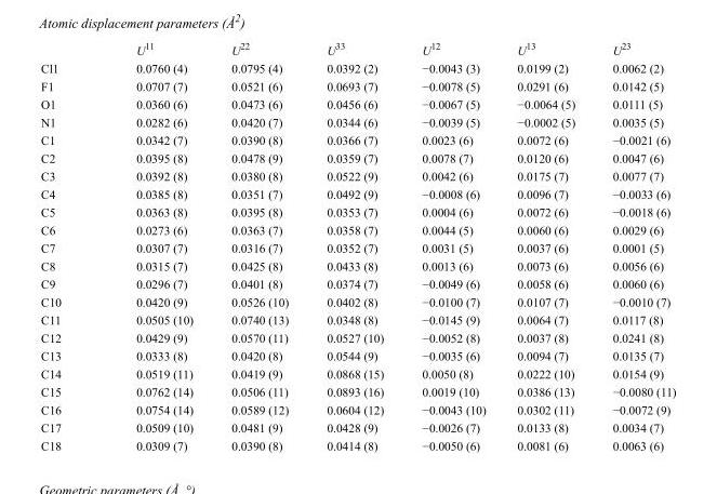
<table><thead><tr><td></td><td>U<sup>11</sup></td><td>U<sup>22</sup></td><td>U<sup>33</sup></td><td>U<sup>12</sup></td><td>U<sup>13</sup></td><td>U<sup>23</sup></td></tr></thead><tbody><tr><td>Cl1</td><td>0.0760 (4)</td><td>0.0795 (4)</td><td>0.0392 (2)</td><td>−0.0043 (3)</td><td>0.0199 (2)</td><td>0.0062 (2)</td></tr><tr><td>F1</td><td>0.0707 (7)</td><td>0.0521 (6)</td><td>0.0693 (7)</td><td>−0.0078 (5)</td><td>0.0291 (6)</td><td>0.0142 (5)</td></tr><tr><td>O1</td><td>0.0360 (6)</td><td>0.0473 (6)</td><td>0.0456 (6)</td><td>−0.0067 (5)</td><td>−0.0064 (5)</td><td>0.0111 (5)</td></tr><tr><td>N1</td><td>0.0282 (6)</td><td>0.0420 (7)</td><td>0.0344 (6)</td><td>−0.0039 (5)</td><td>−0.0002 (5)</td><td>0.0035 (5)</td></tr><tr><td>C1</td><td>0.0342 (7)</td><td>0.0390 (8)</td><td>0.0366 (7)</td><td>0.0023 (6)</td><td>0.0072 (6)</td><td>−0.0021 (6)</td></tr><tr><td>C2</td><td>0.0395 (8)</td><td>0.0478 (9)</td><td>0.0359 (7)</td><td>0.0078 (7)</td><td>0.0120 (6)</td><td>0.0047 (6)</td></tr><tr><td>C3</td><td>0.0392 (8)</td><td>0.0380 (8)</td><td>0.0522 (9)</td><td>0.0042 (6)</td><td>0.0175 (7)</td><td>0.0077 (7)</td></tr><tr><td>C4</td><td>0.0385 (8)</td><td>0.0351 (7)</td><td>0.0492 (9)</td><td>−0.0008 (6)</td><td>0.0096 (7)</td><td>−0.0033 (6)</td></tr><tr><td>C5</td><td>0.0363 (8)</td><td>0.0395 (8)</td><td>0.0353 (7)</td><td>0.0004 (6)</td><td>0.0072 (6)</td><td>−0.0018 (6)</td></tr><tr><td>C6</td><td>0.0273 (6)</td><td>0.0363 (7)</td><td>0.0358 (7)</td><td>0.0044 (5)</td><td>0.0060 (6)</td><td>0.0029 (6)</td></tr><tr><td>C7</td><td>0.0307 (7)</td><td>0.0316 (7)</td><td>0.0352 (7)</td><td>0.0031 (5)</td><td>0.0037 (6)</td><td>0.0001 (5)</td></tr><tr><td>C8</td><td>0.0315 (7)</td><td>0.0425 (8)</td><td>0.0433 (8)</td><td>0.0013 (6)</td><td>0.0073 (6)</td><td>0.0056 (6)</td></tr><tr><td>C9</td><td>0.0296 (7)</td><td>0.0401 (8)</td><td>0.0374 (7)</td><td>−0.0049 (6)</td><td>0.0058 (6)</td><td>0.0060 (6)</td></tr><tr><td>C10</td><td>0.0420 (9)</td><td>0.0526 (10)</td><td>0.0402 (8)</td><td>−0.0100 (7)</td><td>0.0107 (7)</td><td>−0.0010 (7)</td></tr><tr><td>C11</td><td>0.0505 (10)</td><td>0.0740 (13)</td><td>0.0348 (8)</td><td>−0.0145 (9)</td><td>0.0064 (7)</td><td>0.0117 (8)</td></tr><tr><td>C12</td><td>0.0429 (9)</td><td>0.0570 (11)</td><td>0.0527 (10)</td><td>−0.0052 (8)</td><td>0.0037 (8)</td><td>0.0241 (8)</td></tr><tr><td>C13</td><td>0.0333 (8)</td><td>0.0420 (8)</td><td>0.0544 (9)</td><td>−0.0035 (6)</td><td>0.0094 (7)</td><td>0.0135 (7)</td></tr><tr><td>C14</td><td>0.0519 (11)</td><td>0.0419 (9)</td><td>0.0868 (15)</td><td>0.0050 (8)</td><td>0.0222 (10)</td><td>0.0154 (9)</td></tr><tr><td>C15</td><td>0.0762 (14)</td><td>0.0506 (11)</td><td>0.0893 (16)</td><td>0.0019 (10)</td><td>0.0386 (13)</td><td>−0.0080 (11)</td></tr><tr><td>C16</td><td>0.0754 (14)</td><td>0.0589 (12)</td><td>0.0604 (12)</td><td>−0.0043 (10)</td><td>0.0302 (11)</td><td>−0.0072 (9)</td></tr><tr><td>C17</td><td>0.0509 (10)</td><td>0.0481 (9)</td><td>0.0428 (9)</td><td>−0.0026 (7)</td><td>0.0133 (8)</td><td>0.0034 (7)</td></tr><tr><td>C18</td><td>0.0309 (7)</td><td>0.0390 (8)</td><td>0.0414 (8)</td><td>−0.0050 (6)</td><td>0.0081 (6)</td><td>0.0063 (6)</td></tr></tbody></table>